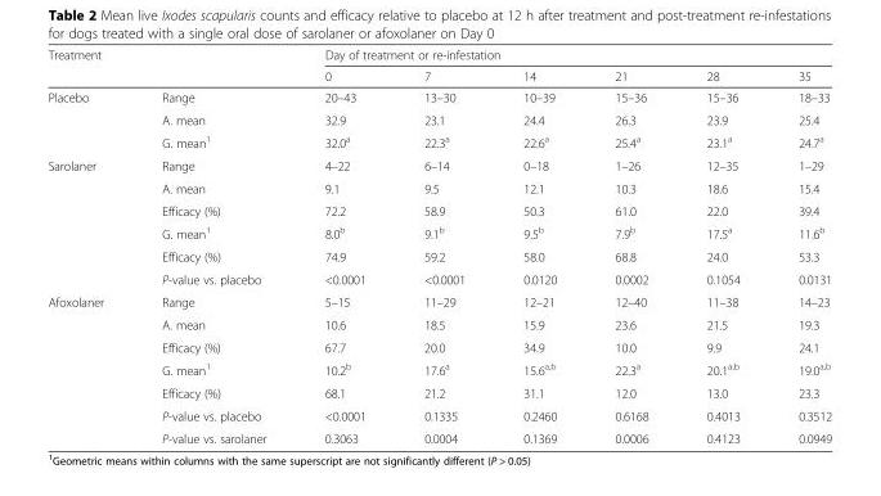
<table><thead><tr><td rowspan="2">Treatment</td><td rowspan="2"></td><td colspan="6">Day of treatment or re-infestation</td></tr><tr><td>0</td><td>7</td><td>14</td><td>21</td><td>28</td><td>35</td></tr></thead><tbody><tr><td rowspan="3">Placebo</td><td>Range</td><td>20–43</td><td>13–30</td><td>10–39</td><td>15–36</td><td>15–36</td><td>18–33</td></tr><tr><td>A. mean</td><td>32.9</td><td>23.1</td><td>24.4</td><td>26.3</td><td>23.9</td><td>25.4</td></tr><tr><td>G. mean<sup>1</sup></td><td>32.0<sup>a</sup></td><td>22.3<sup>a</sup></td><td>22.6<sup>a</sup></td><td>25.4<sup>a</sup></td><td>23.1<sup>a</sup></td><td>24.7<sup>a</sup></td></tr><tr><td rowspan="6">Sarolaner</td><td>Range</td><td>4–22</td><td>6–14</td><td>0–18</td><td>1–26</td><td>12–35</td><td>1–29</td></tr><tr><td>A. mean</td><td>9.1</td><td>9.5</td><td>12.1</td><td>10.3</td><td>18.6</td><td>15.4</td></tr><tr><td>Efficacy (%)</td><td>72.2</td><td>58.9</td><td>50.3</td><td>61.0</td><td>22.0</td><td>39.4</td></tr><tr><td>G. mean<sup>1</sup></td><td>8.0<sup>b</sup></td><td>9.1<sup>b</sup></td><td>9.5<sup>b</sup></td><td>7.9<sup>b</sup></td><td>17.5<sup>a</sup></td><td>11.6<sup>b</sup></td></tr><tr><td>Efficacy (%)</td><td>74.9</td><td>59.2</td><td>58.0</td><td>68.8</td><td>24.0</td><td>53.3</td></tr><tr><td>P-value vs. placebo</td><td>&lt;0.0001</td><td>&lt;0.0001</td><td>0.0120</td><td>0.0002</td><td>0.1054</td><td>0.0131</td></tr><tr><td rowspan="7">Afoxolaner</td><td>Range</td><td>5–15</td><td>11–29</td><td>12–21</td><td>12–40</td><td>11–38</td><td>14–23</td></tr><tr><td>A. mean</td><td>10.6</td><td>18.5</td><td>15.9</td><td>23.6</td><td>21.5</td><td>19.3</td></tr><tr><td>Efficacy (%)</td><td>67.7</td><td>20.0</td><td>34.9</td><td>10.0</td><td>9.9</td><td>24.1</td></tr><tr><td>G. mean<sup>1</sup></td><td>10.2<sup>b</sup></td><td>17.6<sup>a</sup></td><td>15.6<sup>a,b</sup></td><td>22.3<sup>a</sup></td><td>20.1<sup>a,b</sup></td><td>19.0<sup>a,b</sup></td></tr><tr><td>Efficacy (%)</td><td>68.1</td><td>21.2</td><td>31.1</td><td>12.0</td><td>13.0</td><td>23.3</td></tr><tr><td>P-value vs. placebo</td><td>&lt;0.0001</td><td>0.1335</td><td>0.2460</td><td>0.6168</td><td>0.4013</td><td>0.3512</td></tr><tr><td>P-value vs. sarolaner</td><td>0.3063</td><td>0.0004</td><td>0.1369</td><td>0.0006</td><td>0.4123</td><td>0.0949</td></tr></tbody></table>